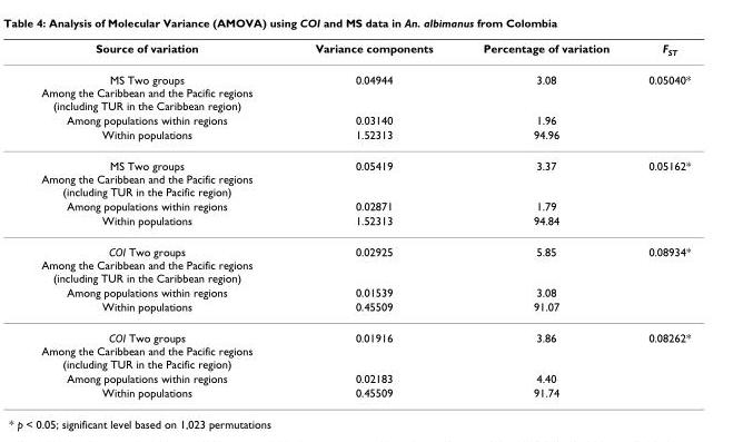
<table><thead><tr><td>Source of variation</td><td>Variance components</td><td>Percentage of variation</td><td>F<sub>ST</sub></td></tr></thead><tbody><tr><td>MS Two groups Among the Caribbean and the Pacific regions (including TUR in the Caribbean region)</td><td>0.04944</td><td>3.08</td><td>0.05040*</td></tr><tr><td>Among populations within regions</td><td>0.03140</td><td>1.96</td><td></td></tr><tr><td>Within populations</td><td>1.52313</td><td>94.96</td><td></td></tr><tr><td>MS Two groups Among the Caribbean and the Pacific regions (including TUR in the Pacific region)</td><td>0.05419</td><td>3.37</td><td>0.05162*</td></tr><tr><td>Among populations within regions</td><td>0.02871</td><td>1.79</td><td></td></tr><tr><td>Within populations</td><td>1.52313</td><td>94.84</td><td></td></tr><tr><td>COI Two groups Among the Caribbean and the Pacific regions (including TUR in the Caribbean region)</td><td>0.02925</td><td>5.85</td><td>0.08934*</td></tr><tr><td>Among populations within regions</td><td>0.01539</td><td>3.08</td><td></td></tr><tr><td>Within populations</td><td>0.45509</td><td>91.07</td><td></td></tr><tr><td>COI Two groups Among the Caribbean and the Pacific regions (including TUR in the Pacific region)</td><td>0.01916</td><td>3.86</td><td>0.08262*</td></tr><tr><td>Among populations within regions</td><td>0.02183</td><td>4.40</td><td></td></tr><tr><td>Within populations</td><td>0.45509</td><td>91.74</td><td></td></tr></tbody></table>